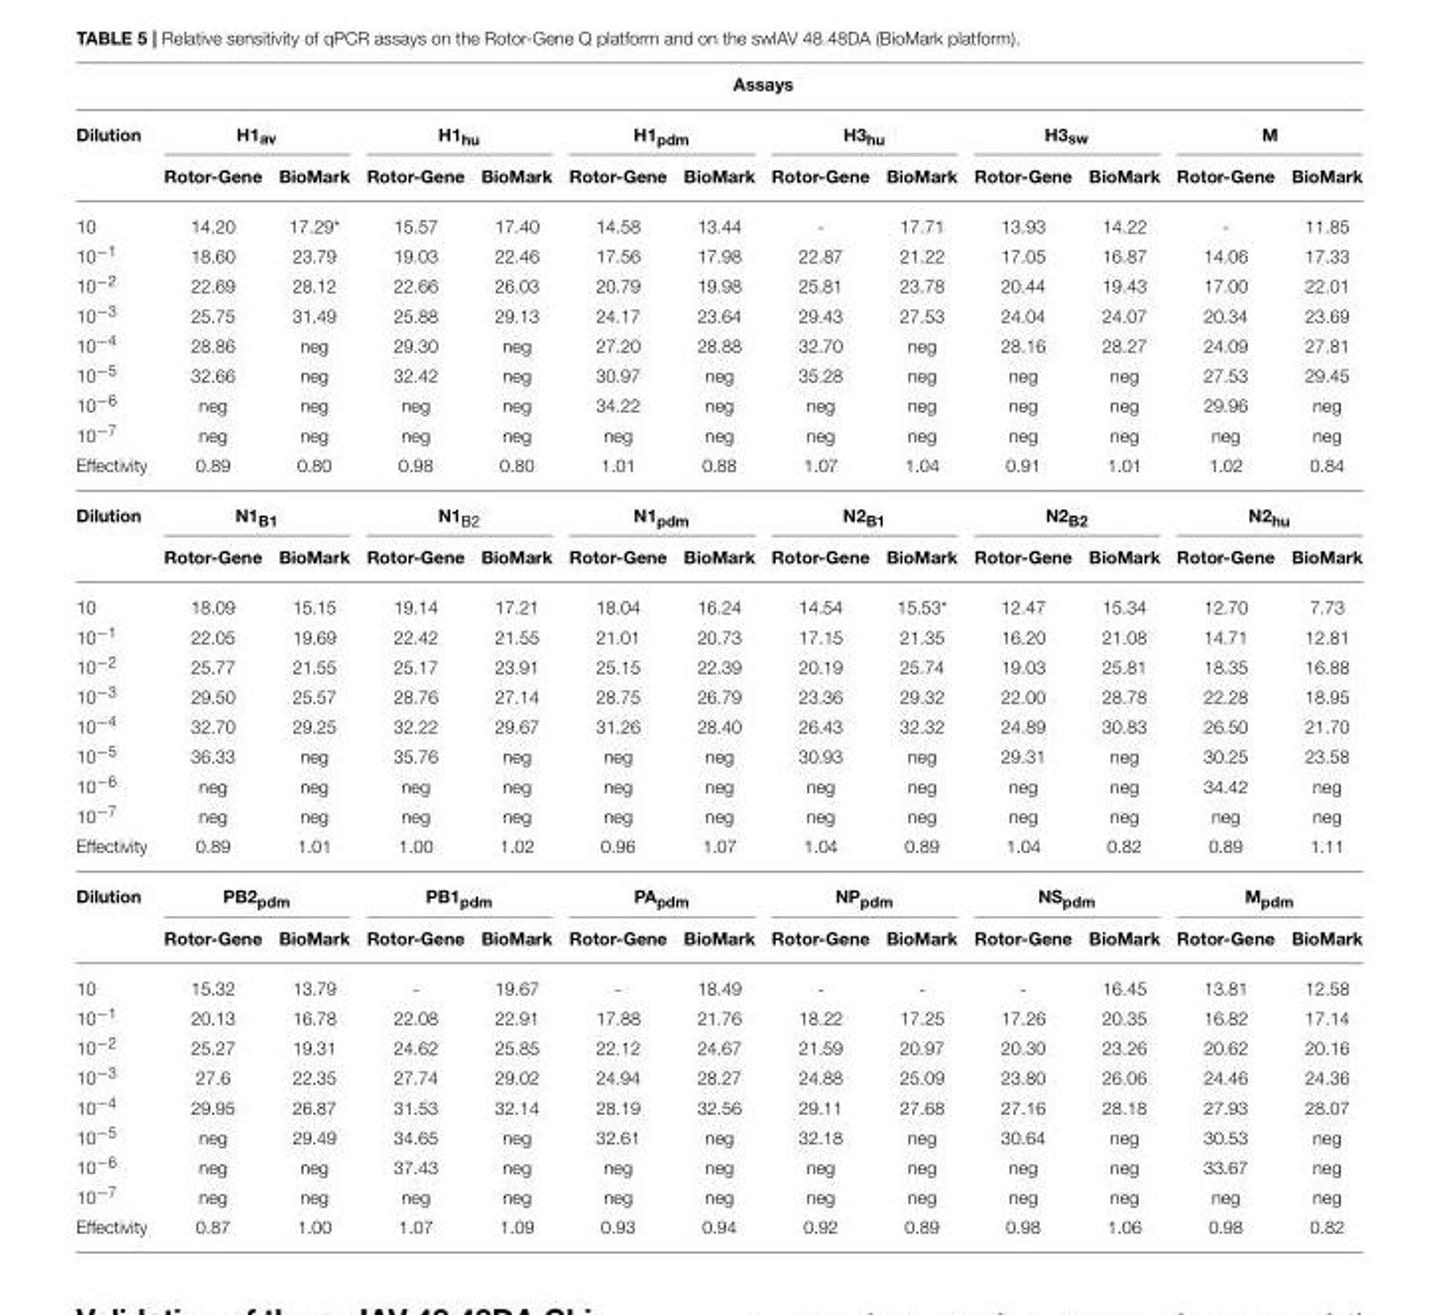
<table><thead><tr><td rowspan="3">Dilution</td><td colspan="12">Assays</td></tr><tr><td colspan="2">H1<sub>av</sub></td><td colspan="2">H1<sub>hu</sub></td><td colspan="2">H1<sub>pdm</sub></td><td colspan="2">H3<sub>hu</sub></td><td colspan="2">H3<sub>sw</sub></td><td colspan="2">M</td></tr><tr><td>Rotor-Gene</td><td>BioMark</td><td>Rotor-Gene</td><td>BioMark</td><td>Rotor-Gene</td><td>BioMark</td><td>Rotor-Gene</td><td>BioMark</td><td>Rotor-Gene</td><td>BioMark</td><td>Rotor-Gene</td><td>BioMark</td></tr></thead><tbody><tr><td>10</td><td>14.20</td><td>17.29*</td><td>15.57</td><td>17.40</td><td>14.58</td><td>13.44</td><td>-</td><td>17.71</td><td>13.93</td><td>14.22</td><td>-</td><td>11.85</td></tr><tr><td>10<sup>−1</sup></td><td>18.60</td><td>23.79</td><td>19.03</td><td>22.46</td><td>17.56</td><td>17.98</td><td>22.87</td><td>21.22</td><td>17.05</td><td>16.87</td><td>14.06</td><td>17.33</td></tr><tr><td>10<sup>−2</sup></td><td>22.69</td><td>28.12</td><td>22.66</td><td>26.03</td><td>20.79</td><td>19.98</td><td>25.81</td><td>23.78</td><td>20.44</td><td>19.43</td><td>17.00</td><td>22.01</td></tr><tr><td>10<sup>−3</sup></td><td>25.75</td><td>31.49</td><td>25.88</td><td>29.13</td><td>24.17</td><td>23.64</td><td>29.43</td><td>27.53</td><td>24.04</td><td>24.07</td><td>20.34</td><td>23.69</td></tr><tr><td>10<sup>−4</sup></td><td>28.86</td><td>neg</td><td>29.30</td><td>neg</td><td>27.20</td><td>28.88</td><td>32.70</td><td>neg</td><td>28.16</td><td>28.27</td><td>24.09</td><td>27.81</td></tr><tr><td>10<sup>−5</sup></td><td>32.66</td><td>neg</td><td>32.42</td><td>neg</td><td>30.97</td><td>neg</td><td>35.28</td><td>neg</td><td>neg</td><td>neg</td><td>27.53</td><td>29.45</td></tr><tr><td>10<sup>−6</sup></td><td>neg</td><td>neg</td><td>neg</td><td>neg</td><td>34.22</td><td>neg</td><td>neg</td><td>neg</td><td>neg</td><td>neg</td><td>29.96</td><td>neg</td></tr><tr><td>10<sup>−7</sup></td><td>neg</td><td>neg</td><td>neg</td><td>neg</td><td>neg</td><td>neg</td><td>neg</td><td>neg</td><td>neg</td><td>neg</td><td>neg</td><td>neg</td></tr><tr><td>Effectivity</td><td>0.89</td><td>0.80</td><td>0.98</td><td>0.80</td><td>1.01</td><td>0.88</td><td>1.07</td><td>1.04</td><td>0.91</td><td>1.01</td><td>1.02</td><td>0.84</td></tr><tr><td rowspan="2">Dilution</td><td colspan="2">N1<sub>B1</sub></td><td colspan="2">N1<sub>B2</sub></td><td colspan="2">N1<sub>pdm</sub></td><td colspan="2">N2<sub>B1</sub></td><td colspan="2">N2<sub>B2</sub></td><td colspan="2">N2<sub>hu</sub></td></tr><tr><td>Rotor-Gene</td><td>BioMark</td><td>Rotor-Gene</td><td>BioMark</td><td>Rotor-Gene</td><td>BioMark</td><td>Rotor-Gene</td><td>BioMark</td><td>Rotor-Gene</td><td>BioMark</td><td>Rotor-Gene</td><td>BioMark</td></tr><tr><td>10</td><td>18.09</td><td>15.15</td><td>19.14</td><td>17.21</td><td>18.04</td><td>16.24</td><td>14.54</td><td>15.53*</td><td>12.47</td><td>15.34</td><td>12.70</td><td>7.73</td></tr><tr><td>10<sup>−1</sup></td><td>22.05</td><td>19.69</td><td>22.42</td><td>21.55</td><td>21.01</td><td>20.73</td><td>17.15</td><td>21.35</td><td>16.20</td><td>21.08</td><td>14.71</td><td>12.81</td></tr><tr><td>10<sup>−2</sup></td><td>25.77</td><td>21.55</td><td>25.17</td><td>23.91</td><td>25.15</td><td>22.39</td><td>20.19</td><td>25.74</td><td>19.03</td><td>25.81</td><td>18.35</td><td>16.88</td></tr><tr><td>10<sup>−3</sup></td><td>29.50</td><td>25.57</td><td>28.76</td><td>27.14</td><td>28.75</td><td>26.79</td><td>23.36</td><td>29.32</td><td>22.00</td><td>28.78</td><td>22.28</td><td>18.95</td></tr><tr><td>10<sup>−4</sup></td><td>32.70</td><td>29.25</td><td>32.22</td><td>29.67</td><td>31.26</td><td>28.40</td><td>26.43</td><td>32.32</td><td>24.89</td><td>30.83</td><td>26.50</td><td>21.70</td></tr><tr><td>10<sup>−5</sup></td><td>36.33</td><td>neg</td><td>35.76</td><td>neg</td><td>neg</td><td>neg</td><td>30.93</td><td>neg</td><td>29.31</td><td>neg</td><td>30.25</td><td>23.58</td></tr><tr><td>10<sup>−6</sup></td><td>neg</td><td>neg</td><td>neg</td><td>neg</td><td>neg</td><td>neg</td><td>neg</td><td>neg</td><td>neg</td><td>neg</td><td>34.42</td><td>neg</td></tr><tr><td>10<sup>−7</sup></td><td>neg</td><td>neg</td><td>neg</td><td>neg</td><td>neg</td><td>neg</td><td>neg</td><td>neg</td><td>neg</td><td>neg</td><td>neg</td><td>neg</td></tr><tr><td>Effectivity</td><td>0.89</td><td>1.01</td><td>1.00</td><td>1.02</td><td>0.96</td><td>1.07</td><td>1.04</td><td>0.89</td><td>1.04</td><td>0.82</td><td>0.89</td><td>1.11</td></tr><tr><td rowspan="2">Dilution</td><td colspan="2">PB2<sub>pdm</sub></td><td colspan="2">PB1<sub>pdm</sub></td><td colspan="2">PA<sub>pdm</sub></td><td colspan="2">NP<sub>pdm</sub></td><td colspan="2">NS<sub>pdm</sub></td><td colspan="2">M<sub>pdm</sub></td></tr><tr><td>Rotor-Gene</td><td>BioMark</td><td>Rotor-Gene</td><td>BioMark</td><td>Rotor-Gene</td><td>BioMark</td><td>Rotor-Gene</td><td>BioMark</td><td>Rotor-Gene</td><td>BioMark</td><td>Rotor-Gene</td><td>BioMark</td></tr><tr><td>10</td><td>15.32</td><td>13.79</td><td>-</td><td>19.67</td><td>-</td><td>18.49</td><td>-</td><td>-</td><td>-</td><td>16.45</td><td>13.81</td><td>12.58</td></tr><tr><td>10<sup>−1</sup></td><td>20.13</td><td>16.78</td><td>22.08</td><td>22.91</td><td>17.88</td><td>21.76</td><td>18.22</td><td>17.25</td><td>17.26</td><td>20.35</td><td>16.82</td><td>17.14</td></tr><tr><td>10<sup>−2</sup></td><td>25.27</td><td>19.31</td><td>24.62</td><td>25.85</td><td>22.12</td><td>24.67</td><td>21.59</td><td>20.97</td><td>20.30</td><td>23.26</td><td>20.62</td><td>20.16</td></tr><tr><td>10<sup>−3</sup></td><td>27.6</td><td>22.35</td><td>27.74</td><td>29.02</td><td>24.94</td><td>28.27</td><td>24.88</td><td>25.09</td><td>23.80</td><td>26.06</td><td>24.46</td><td>24.36</td></tr><tr><td>10<sup>−4</sup></td><td>29.95</td><td>26.87</td><td>31.53</td><td>32.14</td><td>28.19</td><td>32.56</td><td>29.11</td><td>27.68</td><td>27.16</td><td>28.18</td><td>27.93</td><td>28.07</td></tr><tr><td>10<sup>−5</sup></td><td>neg</td><td>29.49</td><td>34.65</td><td>neg</td><td>32.61</td><td>neg</td><td>32.18</td><td>neg</td><td>30.64</td><td>neg</td><td>30.53</td><td>neg</td></tr><tr><td>10<sup>−6</sup></td><td>neg</td><td>neg</td><td>37.43</td><td>neg</td><td>neg</td><td>neg</td><td>neg</td><td>neg</td><td>neg</td><td>neg</td><td>33.67</td><td>neg</td></tr><tr><td>10<sup>−7</sup></td><td>neg</td><td>neg</td><td>neg</td><td>neg</td><td>neg</td><td>neg</td><td>neg</td><td>neg</td><td>neg</td><td>neg</td><td>neg</td><td>neg</td></tr><tr><td>Effectivity</td><td>0.87</td><td>1.00</td><td>1.07</td><td>1.09</td><td>0.93</td><td>0.94</td><td>0.92</td><td>0.89</td><td>0.98</td><td>1.06</td><td>0.98</td><td>0.82</td></tr></tbody></table>